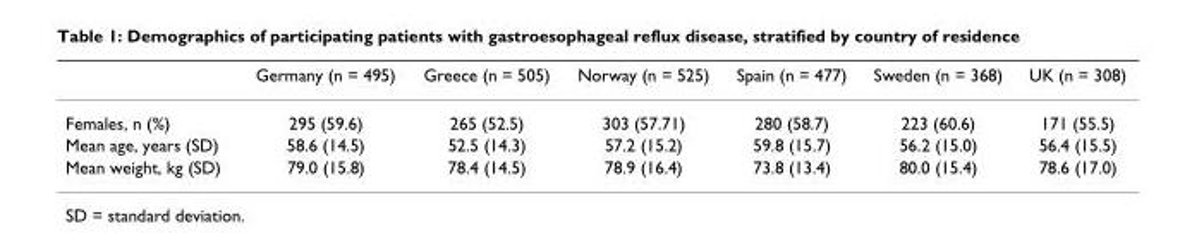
<table><thead><tr><td></td><td>Germany (n = 495)</td><td>Greece (n = 505)</td><td>Norway (n = 525)</td><td>Spain (n = 477)</td><td>Sweden (n = 368)</td><td>UK (n = 308)</td></tr></thead><tbody><tr><td>Females, n (%)</td><td>295 (59.6)</td><td>265 (52.5)</td><td>303 (57.71)</td><td>280 (58.7)</td><td>223 (60.6)</td><td>171 (55.5)</td></tr><tr><td>Mean age, years (SD)</td><td>58.6 (14.5)</td><td>52.5 (14.3)</td><td>57.2 (15.2)</td><td>59.8 (15.7)</td><td>56.2 (15.0)</td><td>56.4 (15.5)</td></tr><tr><td>Mean weight, kg (SD)</td><td>79.0 (15.8)</td><td>78.4 (14.5)</td><td>78.9 (16.4)</td><td>73.8 (13.4)</td><td>80.0 (15.4)</td><td>78.6 (17.0)</td></tr></tbody></table>